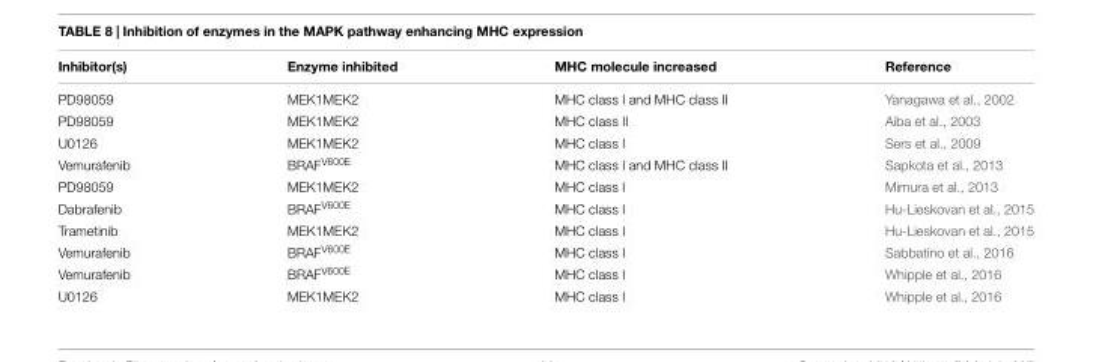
<table><thead><tr><td>Inhibitor(s)</td><td>Enzyme inhibited</td><td>MHC molecule increased</td><td>Reference</td></tr></thead><tbody><tr><td>PD98059</td><td>MEK1MEK2</td><td>MHC class I and MHC class II</td><td>Yanagawa et al., 2002</td></tr><tr><td>PD98059</td><td>MEK1MEK2</td><td>MHC class II</td><td>Aiba et al., 2003</td></tr><tr><td>U0126</td><td>MEK1MEK2</td><td>MHC class I</td><td>Sers et al., 2009</td></tr><tr><td>Vemurafenib</td><td>BRAF<sup>V600E</sup></td><td>MHC class I and MHC class II</td><td>Sapkota et al., 2013</td></tr><tr><td>PD98059</td><td>MEK1MEK2</td><td>MHC class I</td><td>Mimura et al., 2013</td></tr><tr><td>Dabrafenib</td><td>BRAF<sup>V600E</sup></td><td>MHC class I</td><td>Hu-Lieskovan et al., 2015</td></tr><tr><td>Trametinib</td><td>MEK1MEK2</td><td>MHC class I</td><td>Hu-Lieskovan et al., 2015</td></tr><tr><td>Vemurafenib</td><td>BRAF<sup>V600E</sup></td><td>MHC class I</td><td>Sabbatino et al., 2016</td></tr><tr><td>Vemurafenib</td><td>BRAF<sup>V600E</sup></td><td>MHC class I</td><td>Whipple et al., 2016</td></tr><tr><td>U0126</td><td>MEK1MEK2</td><td>MHC class I</td><td>Whipple et al., 2016</td></tr></tbody></table>